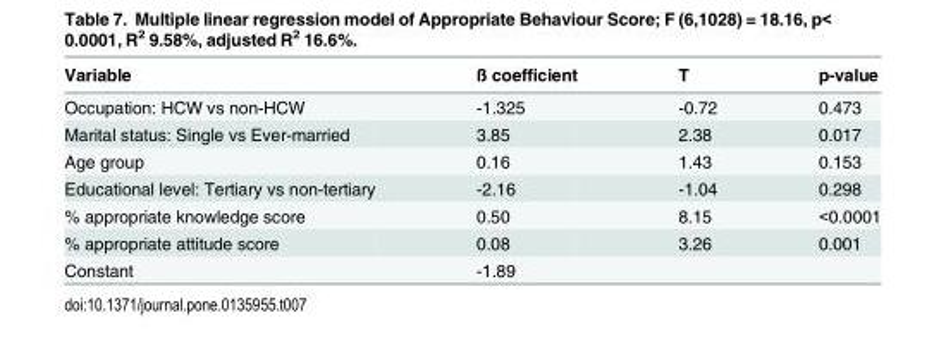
<table><thead><tr><td>Variable</td><td>ß coefficient</td><td>T</td><td>p-value</td></tr></thead><tbody><tr><td>Occupation: HCW vs non-HCW</td><td>-1.325</td><td>-0.72</td><td>0.473</td></tr><tr><td>Marital status: Single vs Ever-married</td><td>3.85</td><td>2.38</td><td>0.017</td></tr><tr><td>Age group</td><td>0.16</td><td>1.43</td><td>0.153</td></tr><tr><td>Educational level: Tertiary vs non-tertiary</td><td>-2.16</td><td>-1.04</td><td>0.298</td></tr><tr><td>% appropriate knowledge score</td><td>0.50</td><td>8.15</td><td>&lt;0.0001</td></tr><tr><td>% appropriate attitude score</td><td>0.08</td><td>3.26</td><td>0.001</td></tr><tr><td>Constant</td><td>-1.89</td><td></td><td></td></tr></tbody></table>